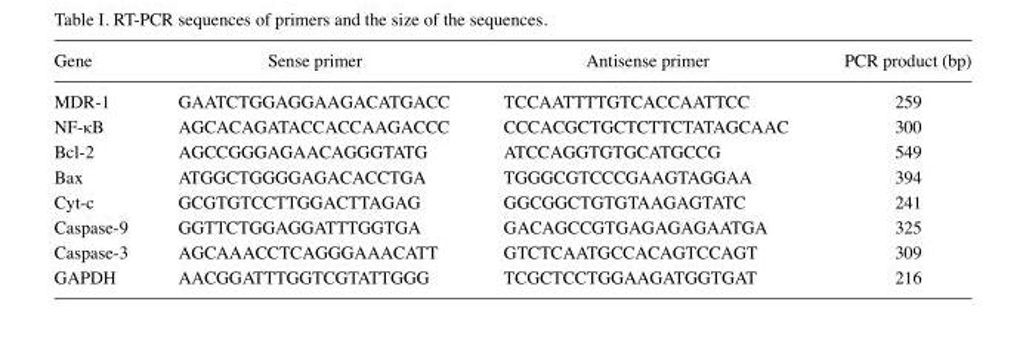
<table><thead><tr><td>Gene</td><td>Sense primer</td><td>Antisense primer</td><td>PCR product (bp)</td></tr></thead><tbody><tr><td>MDR-1</td><td>GAATCTGGAGGAAGACATGACC</td><td>TCCAATTTTGTCACCAATTCC</td><td>259</td></tr><tr><td>NF-κB</td><td>AGCACAGATACCACCAAGACCC</td><td>CCCACGCTGCTCTTCTATAGCAAC</td><td>300</td></tr><tr><td>Bcl-2</td><td>AGCCGGGAGAACAGGGTATG</td><td>ATCCAGGTGTGCATGCCG</td><td>549</td></tr><tr><td>Bax</td><td>ATGGCTGGGGAGACACCTGA</td><td>TGGGCGTCCCGAAGTAGGAA</td><td>394</td></tr><tr><td>Cyt-c</td><td>GCGTGTCCTTGGACTTAGAG</td><td>GGCGGCTGTGTAAGAGTATC</td><td>241</td></tr><tr><td>Caspase-9</td><td>GGTTCTGGAGGATTTGGTGA</td><td>GACAGCCGTGAGAGAGAATGA</td><td>325</td></tr><tr><td>Caspase-3</td><td>AGCAAACCTCAGGGAAACATT</td><td>GTCTCAATGCCACAGTCCAGT</td><td>309</td></tr><tr><td>GAPDH</td><td>AACGGATTTGGTCGTATTGGG</td><td>TCGCTCCTGGAAGATGGTGAT</td><td>216</td></tr></tbody></table>